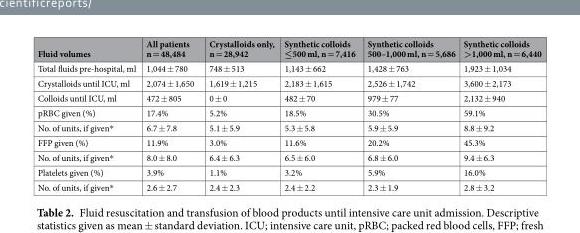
<table><thead><tr><td>Fluid volumes</td><td>All patients n = 48,484</td><td>Crystalloids only, n = 28,942</td><td>Synthetic colloids ≤500 ml, n = 7,416</td><td>Synthetic colloids 500–1,000 ml, n = 5,686</td><td>Synthetic colloids &gt;1,000 ml, n = 6,440</td></tr></thead><tbody><tr><td>Total fluids pre-hospital, ml</td><td>1,044 ± 780</td><td>748 ± 513</td><td>1,143 ± 662</td><td>1,428 ± 763</td><td>1,923 ± 1,034</td></tr><tr><td>Crystalloids until ICU, ml</td><td>2,074 ± 1,650</td><td>1,619 ± 1,215</td><td>2,183 ± 1,615</td><td>2,526 ± 1,742</td><td>3,600 ± 2,173</td></tr><tr><td>Colloids until ICU, ml</td><td>472 ± 805</td><td>0 ± 0</td><td>482 ± 70</td><td>979 ± 77</td><td>2,132 ± 940</td></tr><tr><td>pRBC given (%)</td><td>17.4%</td><td>5.2%</td><td>18.5%</td><td>30.5%</td><td>59.1%</td></tr><tr><td>No. of units, if given*</td><td>6.7 ± 7.8</td><td>5.1 ± 5.9</td><td>5.3 ± 5.8</td><td>5.9 ± 5.9</td><td>8.8 ± 9.2</td></tr><tr><td>FFP given (%)</td><td>11.9%</td><td>3.0%</td><td>11.6%</td><td>20.2%</td><td>45.3%</td></tr><tr><td>No. of units, if given*</td><td>8.0 ± 8.0</td><td>6.4 ± 6.3</td><td>6.5 ± 6.0</td><td>6.8 ± 6.0</td><td>9.4 ± 6.3</td></tr><tr><td>Platelets given (%)</td><td>3.9%</td><td>1.1%</td><td>3.2%</td><td>5.9%</td><td>16.0%</td></tr><tr><td>No. of units, if given*</td><td>2.6 ± 2.7</td><td>2.4 ± 2.3</td><td>2.4 ± 2.2</td><td>2.3 ± 1.9</td><td>2.8 ± 3.2</td></tr></tbody></table>